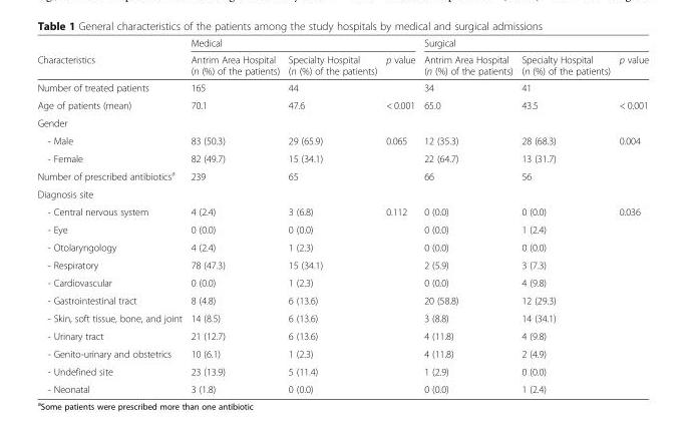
<table><thead><tr><td rowspan="2">Characteristics</td><td colspan="3">Medical</td><td colspan="3">Surgical</td></tr><tr><td>Antrim Area Hospital (n (%) of the patients)</td><td>Specialty Hospital (n (%) of the patients)</td><td>p value</td><td>Antrim Area Hospital (n (%) of the patients)</td><td>Specialty Hospital (n (%) of the patients)</td><td>p value</td></tr></thead><tbody><tr><td>Number of treated patients</td><td>165</td><td>44</td><td></td><td>34</td><td>41</td><td></td></tr><tr><td>Age of patients (mean)</td><td>70.1</td><td>47.6</td><td>&lt; 0.001</td><td>65.0</td><td>43.5</td><td>&lt; 0.001</td></tr><tr><td colspan="7">Gender</td></tr><tr><td>- Male</td><td>83 (50.3)</td><td>29 (65.9)</td><td>0.065</td><td>12 (35.3)</td><td>28 (68.3)</td><td>0.004</td></tr><tr><td>- Female</td><td>82 (49.7)</td><td>15 (34.1)</td><td></td><td>22 (64.7)</td><td>13 (31.7)</td><td></td></tr><tr><td>Number of prescribed antibiotics<sup>a</sup></td><td>239</td><td>65</td><td></td><td>66</td><td>56</td><td></td></tr><tr><td colspan="7">Diagnosis site</td></tr><tr><td>- Central nervous system</td><td>4 (2.4)</td><td>3 (6.8)</td><td>0.112</td><td>0 (0.0)</td><td>0 (0.0)</td><td>0.036</td></tr><tr><td>- Eye</td><td>0 (0.0)</td><td>0 (0.0)</td><td></td><td>0 (0.0)</td><td>1 (2.4)</td><td></td></tr><tr><td>- Otolaryngology</td><td>4 (2.4)</td><td>1 (2.3)</td><td></td><td>0 (0.0)</td><td>0 (0.0)</td><td></td></tr><tr><td>- Respiratory</td><td>78 (47.3)</td><td>15 (34.1)</td><td></td><td>2 (5.9)</td><td>3 (7.3)</td><td></td></tr><tr><td>- Cardiovascular</td><td>0 (0.0)</td><td>1 (2.3)</td><td></td><td>0 (0.0)</td><td>4 (9.8)</td><td></td></tr><tr><td>- Gastrointestinal tract</td><td>8 (4.8)</td><td>6 (13.6)</td><td></td><td>20 (58.8)</td><td>12 (29.3)</td><td></td></tr><tr><td>- Skin, soft tissue, bone, and joint</td><td>14 (8.5)</td><td>6 (13.6)</td><td></td><td>3 (8.8)</td><td>14 (34.1)</td><td></td></tr><tr><td>- Urinary tract</td><td>21 (12.7)</td><td>6 (13.6)</td><td></td><td>4 (11.8)</td><td>4 (9.8)</td><td></td></tr><tr><td>- Genito-urinary and obstetrics</td><td>10 (6.1)</td><td>1 (2.3)</td><td></td><td>4 (11.8)</td><td>2 (4.9)</td><td></td></tr><tr><td>- Undefined site</td><td>23 (13.9)</td><td>5 (11.4)</td><td></td><td>1 (2.9)</td><td>0 (0.0)</td><td></td></tr><tr><td>- Neonatal</td><td>3 (1.8)</td><td>0 (0.0)</td><td></td><td>0 (0.0)</td><td>1 (2.4)</td><td></td></tr></tbody></table>